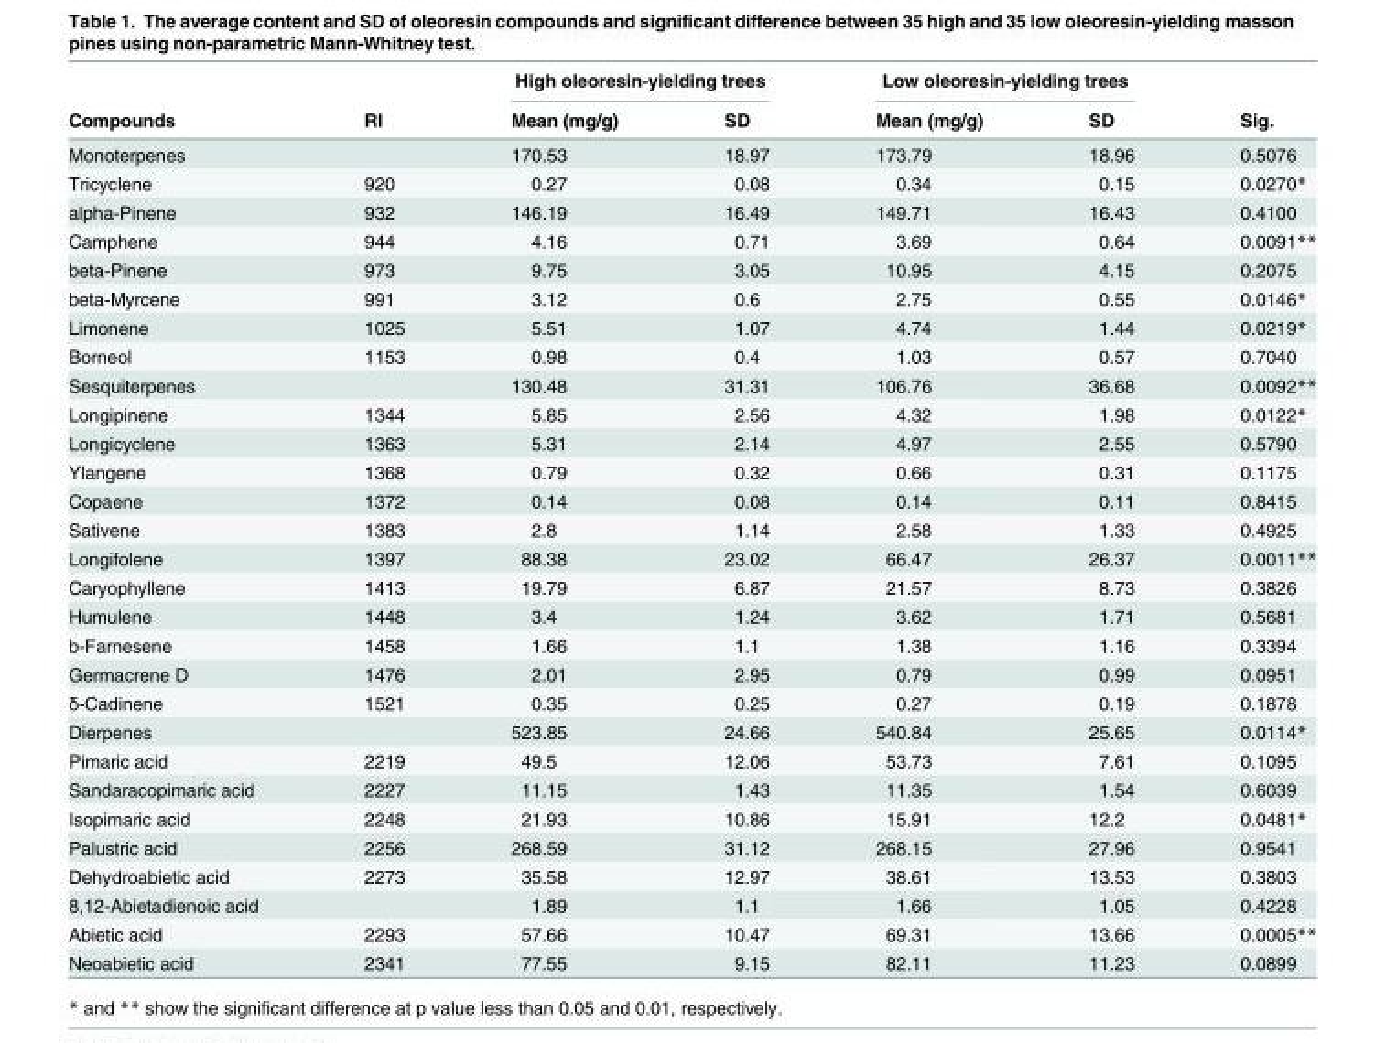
<table><thead><tr><td rowspan="2">Compounds</td><td rowspan="2">RI</td><td colspan="2">High oleoresin-yielding trees</td><td colspan="2">Low oleoresin-yielding trees</td><td rowspan="2">Sig.</td></tr><tr><td>Mean (mg/g)</td><td>SD</td><td>Mean (mg/g)</td><td>SD</td></tr></thead><tbody><tr><td>Monoterpenes</td><td></td><td>170.53</td><td>18.97</td><td>173.79</td><td>18.96</td><td>0.5076</td></tr><tr><td>Tricyclene</td><td>920</td><td>0.27</td><td>0.08</td><td>0.34</td><td>0.15</td><td>0.0270*</td></tr><tr><td>alpha-Pinene</td><td>932</td><td>146.19</td><td>16.49</td><td>149.71</td><td>16.43</td><td>0.4100</td></tr><tr><td>Camphene</td><td>944</td><td>4.16</td><td>0.71</td><td>3.69</td><td>0.64</td><td>0.0091**</td></tr><tr><td>beta-Pinene</td><td>973</td><td>9.75</td><td>3.05</td><td>10.95</td><td>4.15</td><td>0.2075</td></tr><tr><td>beta-Myrcene</td><td>991</td><td>3.12</td><td>0.6</td><td>2.75</td><td>0.55</td><td>0.0146*</td></tr><tr><td>Limonene</td><td>1025</td><td>5.51</td><td>1.07</td><td>4.74</td><td>1.44</td><td>0.0219*</td></tr><tr><td>Borneol</td><td>1153</td><td>0.98</td><td>0.4</td><td>1.03</td><td>0.57</td><td>0.7040</td></tr><tr><td>Sesquiterpenes</td><td></td><td>130.48</td><td>31.31</td><td>106.76</td><td>36.68</td><td>0.0092**</td></tr><tr><td>Longipinene</td><td>1344</td><td>5.85</td><td>2.56</td><td>4.32</td><td>1.98</td><td>0.0122*</td></tr><tr><td>Longicyclene</td><td>1363</td><td>5.31</td><td>2.14</td><td>4.97</td><td>2.55</td><td>0.5790</td></tr><tr><td>Ylangene</td><td>1368</td><td>0.79</td><td>0.32</td><td>0.66</td><td>0.31</td><td>0.1175</td></tr><tr><td>Copaene</td><td>1372</td><td>0.14</td><td>0.08</td><td>0.14</td><td>0.11</td><td>0.8415</td></tr><tr><td>Sativene</td><td>1383</td><td>2.8</td><td>1.14</td><td>2.58</td><td>1.33</td><td>0.4925</td></tr><tr><td>Longifolene</td><td>1397</td><td>88.38</td><td>23.02</td><td>66.47</td><td>26.37</td><td>0.0011**</td></tr><tr><td>Caryophyllene</td><td>1413</td><td>19.79</td><td>6.87</td><td>21.57</td><td>8.73</td><td>0.3826</td></tr><tr><td>Humulene</td><td>1448</td><td>3.4</td><td>1.24</td><td>3.62</td><td>1.71</td><td>0.5681</td></tr><tr><td>b-Farnesene</td><td>1458</td><td>1.66</td><td>1.1</td><td>1.38</td><td>1.16</td><td>0.3394</td></tr><tr><td>Germacrene D</td><td>1476</td><td>2.01</td><td>2.95</td><td>0.79</td><td>0.99</td><td>0.0951</td></tr><tr><td>δ-Cadinene</td><td>1521</td><td>0.35</td><td>0.25</td><td>0.27</td><td>0.19</td><td>0.1878</td></tr><tr><td>Dierpenes</td><td></td><td>523.85</td><td>24.66</td><td>540.84</td><td>25.65</td><td>0.0114*</td></tr><tr><td>Pimaric acid</td><td>2219</td><td>49.5</td><td>12.06</td><td>53.73</td><td>7.61</td><td>0.1095</td></tr><tr><td>Sandaracopimaric acid</td><td>2227</td><td>11.15</td><td>1.43</td><td>11.35</td><td>1.54</td><td>0.6039</td></tr><tr><td>Isopimaric acid</td><td>2248</td><td>21.93</td><td>10.86</td><td>15.91</td><td>12.2</td><td>0.0481*</td></tr><tr><td>Palustric acid</td><td>2256</td><td>268.59</td><td>31.12</td><td>268.15</td><td>27.96</td><td>0.9541</td></tr><tr><td>Dehydroabietic acid</td><td>2273</td><td>35.58</td><td>12.97</td><td>38.61</td><td>13.53</td><td>0.3803</td></tr><tr><td>8,12-Abietadienoic acid</td><td></td><td>1.89</td><td>1.1</td><td>1.66</td><td>1.05</td><td>0.4228</td></tr><tr><td>Abietic acid</td><td>2293</td><td>57.66</td><td>10.47</td><td>69.31</td><td>13.66</td><td>0.0005**</td></tr><tr><td>Neoabietic acid</td><td>2341</td><td>77.55</td><td>9.15</td><td>82.11</td><td>11.23</td><td>0.0899</td></tr></tbody></table>